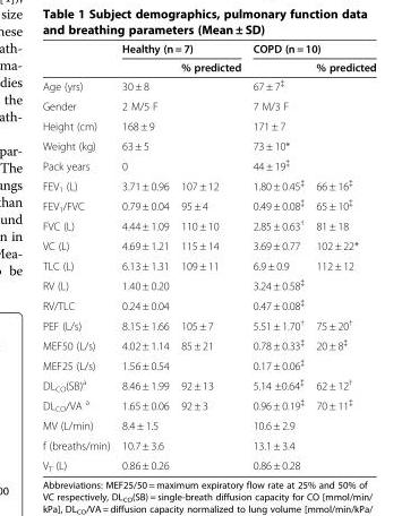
<table><thead><tr><td rowspan="2"></td><td colspan="2">Healthy (n = 7)</td><td colspan="2">COPD (n = 10)</td></tr><tr><td></td><td>% predicted</td><td></td><td>% predicted</td></tr></thead><tbody><tr><td>Age (yrs)</td><td>30 ± 8</td><td></td><td>67 ± 7<sup>‡</sup></td><td></td></tr><tr><td>Gender</td><td>2 M/5 F</td><td></td><td>7 M/3 F</td><td></td></tr><tr><td>Height (cm)</td><td>168 ± 9</td><td></td><td>171 ± 7</td><td></td></tr><tr><td>Weight (kg)</td><td>63 ± 5</td><td></td><td>73 ± 10*</td><td></td></tr><tr><td>Pack years</td><td>0</td><td></td><td>44 ± 19<sup>‡</sup></td><td></td></tr><tr><td>FEV<sub>1</sub> (L)</td><td>3.71 ± 0.96</td><td>107 ± 12</td><td>1.80 ± 0.45<sup>‡</sup></td><td>66 ± 16<sup>‡</sup></td></tr><tr><td>FEV<sub>1</sub>/FVC</td><td>0.79 ± 0.04</td><td>95 ± 4</td><td>0.49 ± 0.08<sup>‡</sup></td><td>65 ± 10<sup>‡</sup></td></tr><tr><td>FVC (L)</td><td>4.44 ± 1.09</td><td>110 ± 10</td><td>2.85 ± 0.63<sup>†</sup></td><td>81 ± 18</td></tr><tr><td>VC (L)</td><td>4.69 ± 1.21</td><td>115 ± 14</td><td>3.69 ± 0.77</td><td>102 ± 22*</td></tr><tr><td>TLC (L)</td><td>6.13 ± 1.31</td><td>109 ± 11</td><td>6.9 ± 0.9</td><td>112 ± 12</td></tr><tr><td>RV (L)</td><td>1.40 ± 0.20</td><td></td><td>3.24 ± 0.58<sup>‡</sup></td><td></td></tr><tr><td>RV/TLC</td><td>0.24 ± 0.04</td><td></td><td>0.47 ± 0.08<sup>‡</sup></td><td></td></tr><tr><td>PEF (L/s)</td><td>8.15 ± 1.66</td><td>105 ± 7</td><td>5.51 ± 1.70<sup>†</sup></td><td>75 ± 20<sup>†</sup></td></tr><tr><td>MEF50 (L/s)</td><td>4.02 ± 1.14</td><td>85 ± 21</td><td>0.78 ± 0.33<sup>‡</sup></td><td>20 ± 8<sup>‡</sup></td></tr><tr><td>MEF25 (L/s)</td><td>1.56 ± 0.54</td><td></td><td>0.17 ± 0.06<sup>‡</sup></td><td></td></tr><tr><td>DL<sub>CO</sub>(SB)<sup>a</sup></td><td>8.46 ± 1.99</td><td>92 ± 13</td><td>5.14 ±0.64<sup>‡</sup></td><td>62 ± 12<sup>†</sup></td></tr><tr><td>DL<sub>CO</sub>/VA <sup>a</sup></td><td>1.65 ± 0.06</td><td>92 ± 3</td><td>0.96 ± 0.19<sup>‡</sup></td><td>70 ± 11<sup>‡</sup></td></tr><tr><td>MV (L/min)</td><td>8.4 ± 1.5</td><td></td><td>10.6 ± 2.9</td><td></td></tr><tr><td>f (breaths/min)</td><td>10.7 ± 3.6</td><td></td><td>13.1 ± 3.4</td><td></td></tr><tr><td>V<sub>T</sub> (L)</td><td>0.86 ± 0.26</td><td></td><td>0.86 ± 0.28</td><td></td></tr></tbody></table>